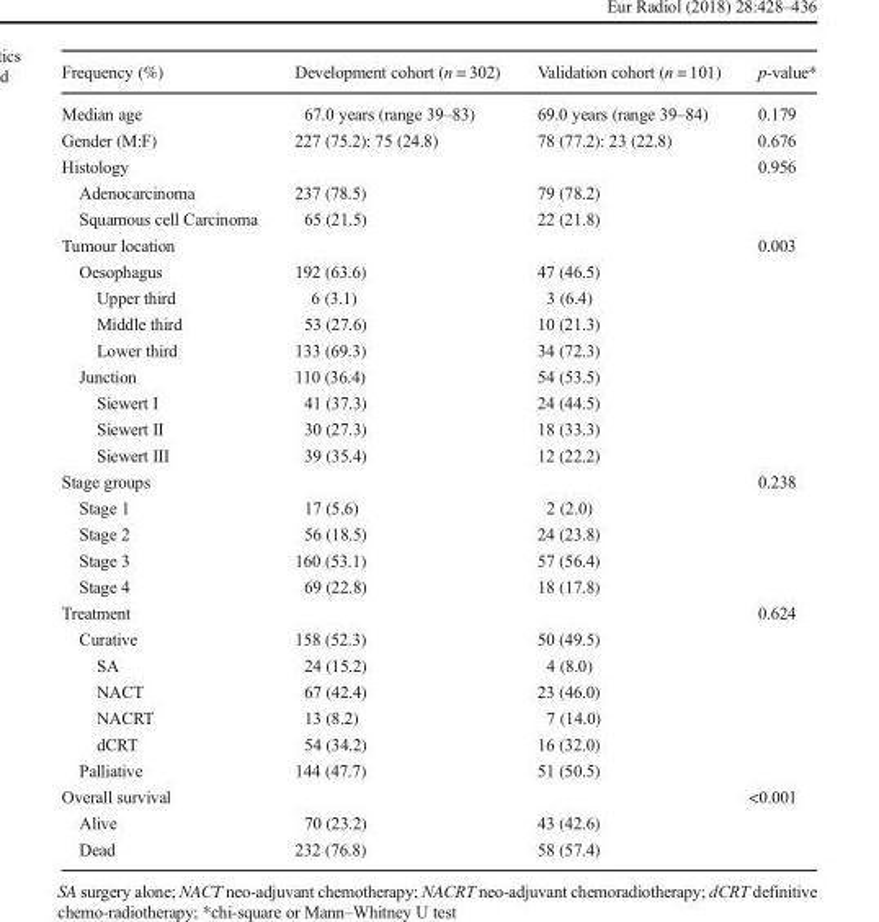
<table><thead><tr><td>Frequency (%)</td><td>Development cohort (n = 302)</td><td>Validation cohort (n = 101)</td><td>p-value*</td></tr></thead><tbody><tr><td>Median age</td><td>67.0 years (range 39–83)</td><td>69.0 years (range 39–84)</td><td>0.179</td></tr><tr><td>Gender (M:F)</td><td>227 (75.2): 75 (24.8)</td><td>78 (77.2): 23 (22.8)</td><td>0.676</td></tr><tr><td>Histology</td><td></td><td></td><td>0.956</td></tr><tr><td>Adenocarcinoma</td><td>237 (78.5)</td><td>79 (78.2)</td><td></td></tr><tr><td>Squamous cell Carcinoma</td><td>65 (21.5)</td><td>22 (21.8)</td><td></td></tr><tr><td>Tumour location</td><td></td><td></td><td>0.003</td></tr><tr><td>Oesophagus</td><td>192 (63.6)</td><td>47 (46.5)</td><td></td></tr><tr><td>Upper third</td><td>6 (3.1)</td><td>3 (6.4)</td><td></td></tr><tr><td>Middle third</td><td>53 (27.6)</td><td>10 (21.3)</td><td></td></tr><tr><td>Lower third</td><td>133 (69.3)</td><td>34 (72.3)</td><td></td></tr><tr><td>Junction</td><td>110 (36.4)</td><td>54 (53.5)</td><td></td></tr><tr><td>Siewert I</td><td>41 (37.3)</td><td>24 (44.5)</td><td></td></tr><tr><td>Siewert II</td><td>30 (27.3)</td><td>18 (33.3)</td><td></td></tr><tr><td>Siewert III</td><td>39 (35.4)</td><td>12 (22.2)</td><td></td></tr><tr><td>Stage groups</td><td></td><td></td><td>0.238</td></tr><tr><td>Stage 1</td><td>17 (5.6)</td><td>2 (2.0)</td><td></td></tr><tr><td>Stage 2</td><td>56 (18.5)</td><td>24 (23.8)</td><td></td></tr><tr><td>Stage 3</td><td>160 (53.1)</td><td>57 (56.4)</td><td></td></tr><tr><td>Stage 4</td><td>69 (22.8)</td><td>18 (17.8)</td><td></td></tr><tr><td>Treatment</td><td></td><td></td><td>0.624</td></tr><tr><td>Curative</td><td>158 (52.3)</td><td>50 (49.5)</td><td></td></tr><tr><td>SA</td><td>24 (15.2)</td><td>4 (8.0)</td><td></td></tr><tr><td>NACT</td><td>67 (42.4)</td><td>23 (46.0)</td><td></td></tr><tr><td>NACRT</td><td>13 (8.2)</td><td>7 (14.0)</td><td></td></tr><tr><td>dCRT</td><td>54 (34.2)</td><td>16 (32.0)</td><td></td></tr><tr><td>Palliative</td><td>144 (47.7)</td><td>51 (50.5)</td><td></td></tr><tr><td>Overall survival</td><td></td><td></td><td>&lt;0.001</td></tr><tr><td>Alive</td><td>70 (23.2)</td><td>43 (42.6)</td><td></td></tr><tr><td>Dead</td><td>232 (76.8)</td><td>58 (57.4)</td><td></td></tr></tbody></table>